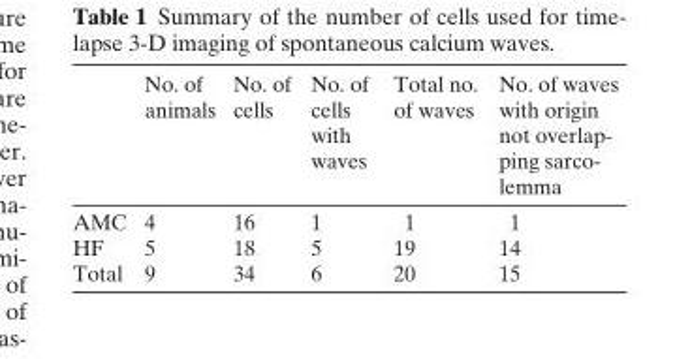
<table><thead><tr><td></td><td>No. of animals</td><td>No. of cells</td><td>No. of cells with waves</td><td>Total no. of waves</td><td>No. of waves with origin not overlap- ping sarco- lemma</td></tr></thead><tbody><tr><td>AMC</td><td>4</td><td>16</td><td>1</td><td>1</td><td>1</td></tr><tr><td>HF</td><td>5</td><td>18</td><td>5</td><td>19</td><td>14</td></tr><tr><td>Total</td><td>9</td><td>34</td><td>6</td><td>20</td><td>15</td></tr></tbody></table>